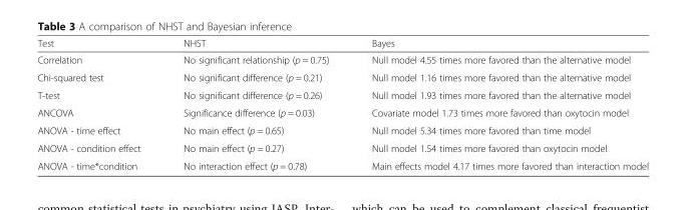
<table><thead><tr><td>Test</td><td>NHST</td><td>Bayes</td></tr></thead><tbody><tr><td>Correlation</td><td>No significant relationship (p = 0.75)</td><td>Null model 4.55 times more favored than the alternative model</td></tr><tr><td>Chi-squared test</td><td>No significant difference (p = 0.21)</td><td>Null model 1.16 times more favored than the alternative model</td></tr><tr><td>T-test</td><td>No significant difference (p = 0.26)</td><td>Null model 1.93 times more favored than the alternative model</td></tr><tr><td>ANCOVA</td><td>Significance difference (p = 0.03)</td><td>Covariate model 1.73 times more favored than oxytocin model</td></tr><tr><td>ANOVA - time effect</td><td>No main effect (p = 0.65)</td><td>Null model 5.34 times more favored than time model</td></tr><tr><td>ANOVA - condition effect</td><td>No main effect (p = 0.27)</td><td>Null model 1.54 times more favored than oxytocin model</td></tr><tr><td>ANOVA - time*condition</td><td>No interaction effect (p = 0.78)</td><td>Main effects model 4.17 times more favored than interaction model</td></tr></tbody></table>